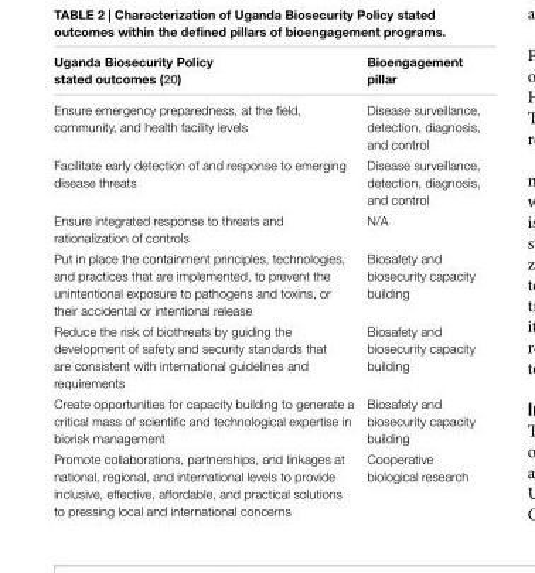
<table><thead><tr><td>Uganda Biosecurity Policy stated outcomes (20)</td><td>Bioengagement pillar</td></tr></thead><tbody><tr><td>Ensure emergency preparedness, at the field, community, and health facility levels</td><td>Disease surveillance, detection, diagnosis, and control</td></tr><tr><td>Facilitate early detection of and response to emerging disease threats</td><td>Disease surveillance, detection, diagnosis, and control</td></tr><tr><td>Ensure integrated response to threats and rationalization of controls</td><td>N/A</td></tr><tr><td>Put in place the containment principles, technologies, and practices that are implemented, to prevent the unintentional exposure to pathogens and toxins, or their accidental or intentional release</td><td>Biosafety and biosecurity capacity building</td></tr><tr><td>Reduce the risk of biothreats by guiding the development of safety and security standards that are consistent with international guidelines and requirements</td><td>Biosafety and biosecurity capacity building</td></tr><tr><td>Create opportunities for capacity building to generate a critical mass of scientific and technological expertise in biorisk management</td><td>Biosafety and biosecurity capacity building</td></tr><tr><td>Promote collaborations, partnerships, and linkages at national, regional, and international levels to provide inclusive, effective, affordable, and practical solutions to pressing local and international concerns</td><td>Cooperative biological research</td></tr></tbody></table>